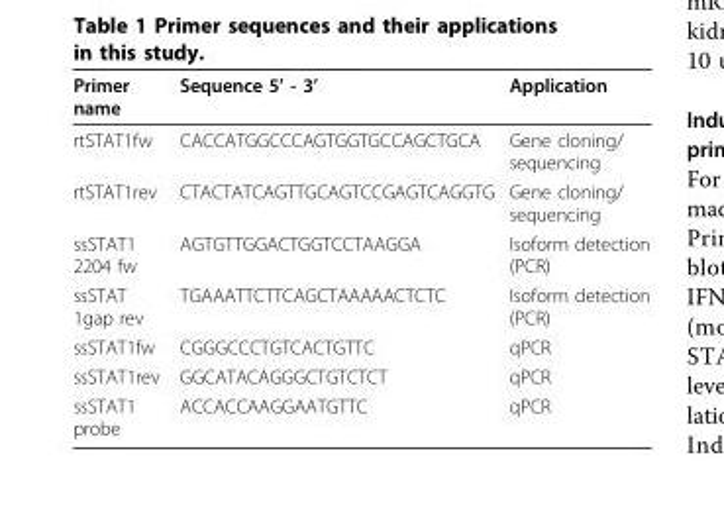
<table><thead><tr><td>Primer name</td><td>Sequence 5’ - 3’</td><td>Application</td></tr></thead><tbody><tr><td>rtSTAT1fw</td><td>CACCATGGCCCAGTGGTGCCAGCTGCA</td><td>Gene cloning/ sequencing</td></tr><tr><td>rtSTAT1rev</td><td>CTACTATCAGTTGCAGTCCGAGTCAGGTG</td><td>Gene cloning/ sequencing</td></tr><tr><td>ssSTAT1 2204 fw</td><td>AGTGTTGGACTGGTCCTAAGGA</td><td>Isoform detection (PCR)</td></tr><tr><td>ssSTAT 1gap rev</td><td>TGAAATTCTTCAGCTAAAAACTCTC</td><td>Isoform detection (PCR)</td></tr><tr><td>ssSTAT1fw</td><td>CGGGCCCTGTCACTGTTC</td><td>qPCR</td></tr><tr><td>ssSTAT1rev</td><td>GGCATACAGGGCTGTCTCT</td><td>qPCR</td></tr><tr><td>ssSTAT1 probe</td><td>ACCACCAAGGAATGTTC</td><td>qPCR</td></tr></tbody></table>